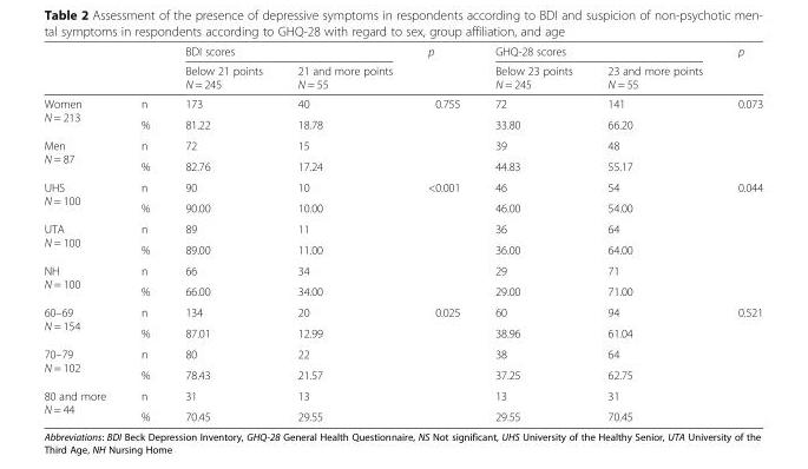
<table><thead><tr><td rowspan="2"></td><td rowspan="2"></td><td colspan="2">BDI scores</td><td rowspan="2">p</td><td colspan="2">GHQ-28 scores</td><td rowspan="2">p</td></tr><tr><td>Below 21 points N = 245</td><td>21 and more points N = 55</td><td>Below 23 points N = 245</td><td>23 and more points N = 55</td></tr></thead><tbody><tr><td rowspan="2">Women N = 213</td><td>n</td><td>173</td><td>40</td><td rowspan="4">0.755</td><td>72</td><td>141</td><td rowspan="4">0.073</td></tr><tr><td>%</td><td>81.22</td><td>18.78</td><td>33.80</td><td>66.20</td></tr><tr><td rowspan="2">Men N = 87</td><td>n</td><td>72</td><td>15</td><td>39</td><td>48</td></tr><tr><td>%</td><td>82.76</td><td>17.24</td><td>44.83</td><td>55.17</td></tr><tr><td rowspan="2">UHS N = 100</td><td>n</td><td>90</td><td>10</td><td rowspan="6">&lt;0.001</td><td>46</td><td>54</td><td rowspan="6">0.044</td></tr><tr><td>%</td><td>90.00</td><td>10.00</td><td>46.00</td><td>54.00</td></tr><tr><td rowspan="2">UTA N = 100</td><td>n</td><td>89</td><td>11</td><td>36</td><td>64</td></tr><tr><td>%</td><td>89.00</td><td>11.00</td><td>36.00</td><td>64.00</td></tr><tr><td rowspan="2">NH N = 100</td><td>n</td><td>66</td><td>34</td><td>29</td><td>71</td></tr><tr><td>%</td><td>66.00</td><td>34.00</td><td>29.00</td><td>71.00</td></tr><tr><td rowspan="2">60–69 N = 154</td><td>n</td><td>134</td><td>20</td><td rowspan="6">0.025</td><td>60</td><td>94</td><td rowspan="6">0.521</td></tr><tr><td>%</td><td>87.01</td><td>12.99</td><td>38.96</td><td>61.04</td></tr><tr><td rowspan="2">70–79 N = 102</td><td>n</td><td>80</td><td>22</td><td>38</td><td>64</td></tr><tr><td>%</td><td>78.43</td><td>21.57</td><td>37.25</td><td>62.75</td></tr><tr><td rowspan="2">80 and more N = 44</td><td>n</td><td>31</td><td>13</td><td>13</td><td>31</td></tr><tr><td>%</td><td>70.45</td><td>29.55</td><td>29.55</td><td>70.45</td></tr></tbody></table>